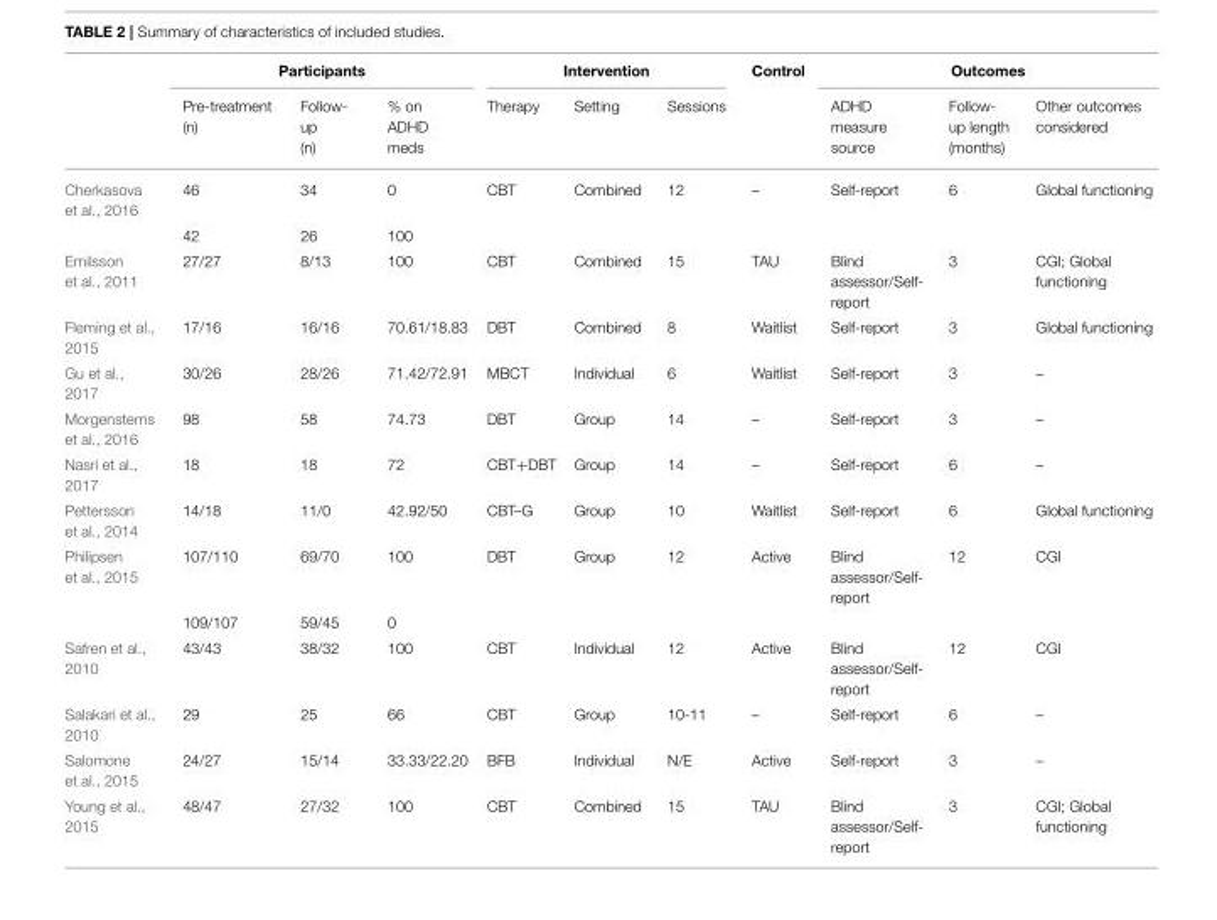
<table><thead><tr><td rowspan="2"></td><td colspan="3">Participants</td><td colspan="3">Intervention</td><td rowspan="2">Control</td><td colspan="3">Outcomes</td></tr><tr><td>Pre-treatment (n)</td><td>Follow- up (n)</td><td>% on ADHD meds</td><td>Therapy</td><td>Setting</td><td>Sessions</td><td>ADHD measure source</td><td>Follow- up length (months)</td><td>Other outcomes considered</td></tr></thead><tbody><tr><td rowspan="2">Cherkasova et al., 2016</td><td>46</td><td>34</td><td>0</td><td>CBT</td><td>Combined</td><td>12</td><td>–</td><td>Self-report</td><td>6</td><td>Global functioning</td></tr><tr><td>42</td><td>26</td><td>100</td><td></td><td></td><td></td><td></td><td></td><td></td><td></td></tr><tr><td>Emilsson et al., 2011</td><td>27/27</td><td>8/13</td><td>100</td><td>CBT</td><td>Combined</td><td>15</td><td>TAU</td><td>Blind assessor/Self- report</td><td>3</td><td>CGI; Global functioning</td></tr><tr><td>Fleming et al., 2015</td><td>17/16</td><td>16/16</td><td>70.61/18.83</td><td>DBT</td><td>Combined</td><td>8</td><td>Waitlist</td><td>Self-report</td><td>3</td><td>Global functioning</td></tr><tr><td>Gu et al., 2017</td><td>30/26</td><td>28/26</td><td>71.42/72.91</td><td>MBCT</td><td>Individual</td><td>6</td><td>Waitlist</td><td>Self-report</td><td>3</td><td>–</td></tr><tr><td>Morgensterns et al., 2016</td><td>98</td><td>58</td><td>74.73</td><td>DBT</td><td>Group</td><td>14</td><td>–</td><td>Self-report</td><td>3</td><td>–</td></tr><tr><td>Nasri et al., 2017</td><td>18</td><td>18</td><td>72</td><td>CBT+DBT</td><td>Group</td><td>14</td><td>–</td><td>Self-report</td><td>6</td><td>–</td></tr><tr><td>Pettersson et al., 2014</td><td>14/18</td><td>11/0</td><td>42.92/50</td><td>CBT–G</td><td>Group</td><td>10</td><td>Waitlist</td><td>Self-report</td><td>6</td><td>Global functioning</td></tr><tr><td rowspan="2">Philipsen et al., 2015</td><td>107/110</td><td>69/70</td><td>100</td><td>DBT</td><td>Group</td><td>12</td><td>Active</td><td>Blind assessor/Self- report</td><td>12</td><td>CGI</td></tr><tr><td>109/107</td><td>59/45</td><td>0</td><td></td><td></td><td></td><td></td><td></td><td></td><td></td></tr><tr><td>Safren et al., 2010</td><td>43/43</td><td>38/32</td><td>100</td><td>CBT</td><td>Individual</td><td>12</td><td>Active</td><td>Blind assessor/Self- report</td><td>12</td><td>CGI</td></tr><tr><td>Salakari et al., 2010</td><td>29</td><td>25</td><td>66</td><td>CBT</td><td>Group</td><td>10-11</td><td>–</td><td>Self-report</td><td>6</td><td>–</td></tr><tr><td>Salomone et al., 2015</td><td>24/27</td><td>15/14</td><td>33.33/22.20</td><td>BFB</td><td>Individual</td><td>N/E</td><td>Active</td><td>Self-report</td><td>3</td><td>–</td></tr><tr><td>Young et al., 2015</td><td>48/47</td><td>27/32</td><td>100</td><td>CBT</td><td>Combined</td><td>15</td><td>TAU</td><td>Blind assessor/Self- report</td><td>3</td><td>CGI; Global functioning</td></tr></tbody></table>